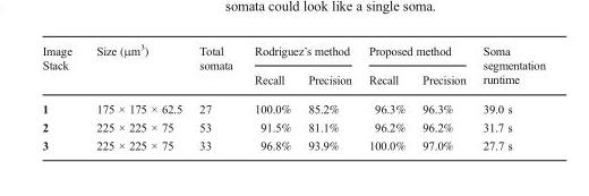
<table><thead><tr><td rowspan="2">Image Stack</td><td rowspan="2">Size (μm<sup>3</sup>)</td><td rowspan="2">Total somata</td><td colspan="2">Rodriguez’s method</td><td colspan="2">Proposed method</td><td rowspan="2">Soma segmentation runtime</td></tr><tr><td>Recall</td><td>Precision</td><td>Recall</td><td>Precision</td></tr></thead><tbody><tr><td>1</td><td>175 × 175 × 62.5</td><td>27</td><td>100.0%</td><td>85.2%</td><td>96.3%</td><td>96.3%</td><td>39.0 s</td></tr><tr><td>2</td><td>225 × 225 × 75</td><td>53</td><td>91.5%</td><td>81.1%</td><td>96.2%</td><td>96.2%</td><td>31.7 s</td></tr><tr><td>3</td><td>225 × 225 × 75</td><td>33</td><td>96.8%</td><td>93.9%</td><td>100.0%</td><td>97.0%</td><td>27.7 s</td></tr></tbody></table>